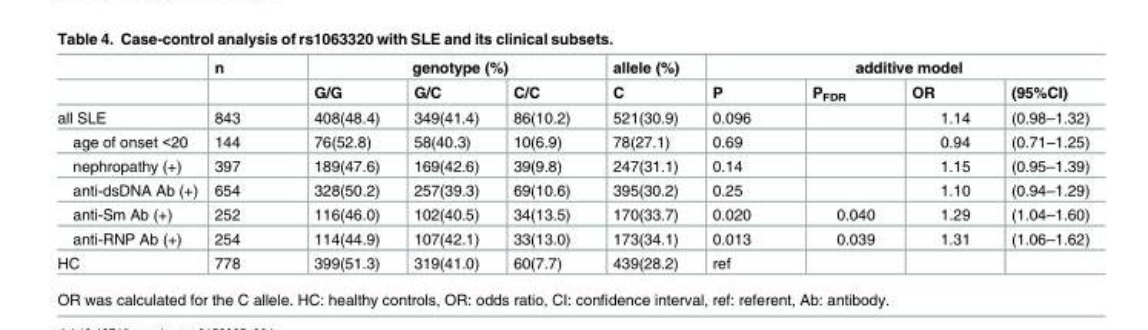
<table><thead><tr><td rowspan="2"></td><td rowspan="2">n</td><td colspan="3">genotype (%)</td><td rowspan="2">allele (%) C</td><td colspan="4">additive model</td></tr><tr><td>G/G</td><td>G/C</td><td>C/C</td><td>P</td><td>P<sub>FDR</sub></td><td>OR</td><td>(95%CI)</td></tr></thead><tbody><tr><td>all SLE</td><td>843</td><td>408(48.4)</td><td>349(41.4)</td><td>86(10.2)</td><td>521(30.9)</td><td>0.096</td><td></td><td>1.14</td><td>(0.98–1.32)</td></tr><tr><td>age of onset &lt;20</td><td>144</td><td>76(52.8)</td><td>58(40.3)</td><td>10(6.9)</td><td>78(27.1)</td><td>0.69</td><td></td><td>0.94</td><td>(0.71–1.25)</td></tr><tr><td>nephropathy (+)</td><td>397</td><td>189(47.6)</td><td>169(42.6)</td><td>39(9.8)</td><td>247(31.1)</td><td>0.14</td><td></td><td>1.15</td><td>(0.95–1.39)</td></tr><tr><td>anti-dsDNA Ab (+)</td><td>654</td><td>328(50.2)</td><td>257(39.3)</td><td>69(10.6)</td><td>395(30.2)</td><td>0.25</td><td></td><td>1.10</td><td>(0.94–1.29)</td></tr><tr><td>anti-Sm Ab (+)</td><td>252</td><td>116(46.0)</td><td>102(40.5)</td><td>34(13.5)</td><td>170(33.7)</td><td>0.020</td><td>0.040</td><td>1.29</td><td>(1.04–1.60)</td></tr><tr><td>anti-RNP Ab (+)</td><td>254</td><td>114(44.9)</td><td>107(42.1)</td><td>33(13.0)</td><td>173(34.1)</td><td>0.013</td><td>0.039</td><td>1.31</td><td>(1.06–1.62)</td></tr><tr><td>HC</td><td>778</td><td>399(51.3)</td><td>319(41.0)</td><td>60(7.7)</td><td>439(28.2)</td><td>ref</td><td></td><td></td><td></td></tr></tbody></table>